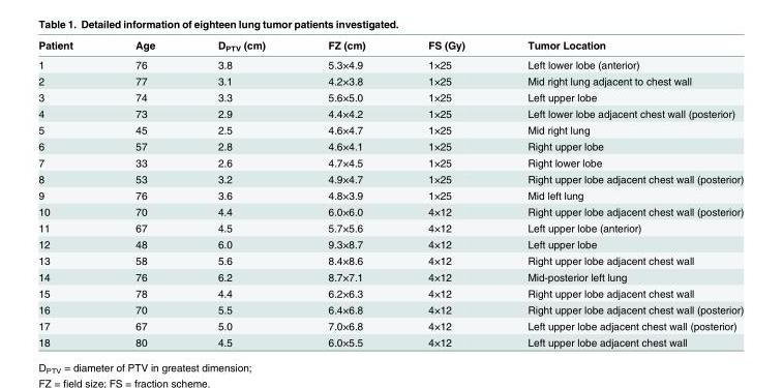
<table><thead><tr><td>Patient</td><td>Age</td><td>D<sub>PTV</sub> (cm)</td><td>FZ (cm)</td><td>FS (Gy)</td><td>Tumor Location</td></tr></thead><tbody><tr><td>1</td><td>76</td><td>3.8</td><td>5.3×4.9</td><td>1×25</td><td>Left lower lobe (anterior)</td></tr><tr><td>2</td><td>77</td><td>3.1</td><td>4.2×3.8</td><td>1×25</td><td>Mid right lung adjacent to chest wall</td></tr><tr><td>3</td><td>74</td><td>3.3</td><td>5.6×5.0</td><td>1×25</td><td>Left upper lobe</td></tr><tr><td>4</td><td>73</td><td>2.9</td><td>4.4×4.2</td><td>1×25</td><td>Left lower lobe adjacent chest wall (posterior)</td></tr><tr><td>5</td><td>45</td><td>2.5</td><td>4.6×4.7</td><td>1×25</td><td>Mid right lung</td></tr><tr><td>6</td><td>57</td><td>2.8</td><td>4.6×4.1</td><td>1×25</td><td>Right upper lobe</td></tr><tr><td>7</td><td>33</td><td>2.6</td><td>4.7×4.5</td><td>1×25</td><td>Right lower lobe</td></tr><tr><td>8</td><td>53</td><td>3.2</td><td>4.9×4.7</td><td>1×25</td><td>Right upper lobe adjacent chest wall (posterior)</td></tr><tr><td>9</td><td>76</td><td>3.6</td><td>4.8×3.9</td><td>1×25</td><td>Mid left lung</td></tr><tr><td>10</td><td>70</td><td>4.4</td><td>6.0×6.0</td><td>4×12</td><td>Right upper lobe adjacent chest wall (posterior)</td></tr><tr><td>11</td><td>67</td><td>4.5</td><td>5.7×5.6</td><td>4×12</td><td>Left upper lobe (anterior)</td></tr><tr><td>12</td><td>48</td><td>6.0</td><td>9.3×8.7</td><td>4×12</td><td>Left upper lobe</td></tr><tr><td>13</td><td>58</td><td>5.6</td><td>8.4×8.6</td><td>4×12</td><td>Right upper lobe adjacent chest wall</td></tr><tr><td>14</td><td>76</td><td>6.2</td><td>8.7×7.1</td><td>4×12</td><td>Mid-posterior left lung</td></tr><tr><td>15</td><td>78</td><td>4.4</td><td>6.2×6.3</td><td>4×12</td><td>Right upper lobe adjacent chest wall</td></tr><tr><td>16</td><td>70</td><td>5.5</td><td>6.4×6.8</td><td>4×12</td><td>Right upper lobe adjacent chest wall (posterior)</td></tr><tr><td>17</td><td>67</td><td>5.0</td><td>7.0×6.8</td><td>4×12</td><td>Left upper lobe adjacent chest wall (posterior)</td></tr><tr><td>18</td><td>80</td><td>4.5</td><td>6.0×5.5</td><td>4×12</td><td>Left upper lobe adjacent chest wall</td></tr></tbody></table>